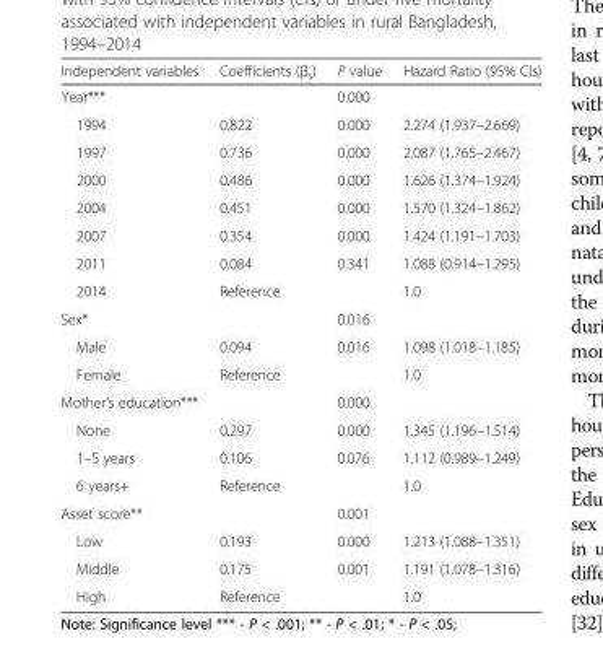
<table><thead><tr><td>Independent variables</td><td>Coefficients (β<sub>s</sub>)</td><td>P value</td><td>Hazard Ratio (95% CIs)</td></tr></thead><tbody><tr><td>Year***</td><td></td><td>0.000</td><td></td></tr><tr><td>1994</td><td>0.822</td><td>0.000</td><td>2.274 (1.937–2.669)</td></tr><tr><td>1997</td><td>0.736</td><td>0.000</td><td>2.087 (1.765–2.467)</td></tr><tr><td>2000</td><td>0.486</td><td>0.000</td><td>1.626 (1.374–1.924)</td></tr><tr><td>2004</td><td>0.451</td><td>0.000</td><td>1.570 (1.324–1.862)</td></tr><tr><td>2007</td><td>0.354</td><td>0.000</td><td>1.424 (1.191–1.703)</td></tr><tr><td>2011</td><td>0.084</td><td>0.341</td><td>1.088 (0.914–1.295)</td></tr><tr><td>2014</td><td>Reference</td><td></td><td>1.0</td></tr><tr><td>Sex*</td><td></td><td>0.016</td><td></td></tr><tr><td>Male</td><td>0.094</td><td>0.016</td><td>1.098 (1.018–1.185)</td></tr><tr><td>Female</td><td>Reference</td><td></td><td>1.0</td></tr><tr><td>Mother’s education***</td><td></td><td>0.000</td><td></td></tr><tr><td>None</td><td>0.297</td><td>0.000</td><td>1.345 (1.196–1.514)</td></tr><tr><td>1–5 years</td><td>0.106</td><td>0.076</td><td>1.112 (0.989–1.249)</td></tr><tr><td>6 years+</td><td>Reference</td><td></td><td>1.0</td></tr><tr><td>Asset score**</td><td></td><td>0.001</td><td></td></tr><tr><td>Low</td><td>0.193</td><td>0.000</td><td>1.213 (1.088–1.351)</td></tr><tr><td>Middle</td><td>0.175</td><td>0.001</td><td>1.191 (1.078–1.316)</td></tr><tr><td>High</td><td>Reference</td><td></td><td>1.0</td></tr></tbody></table>